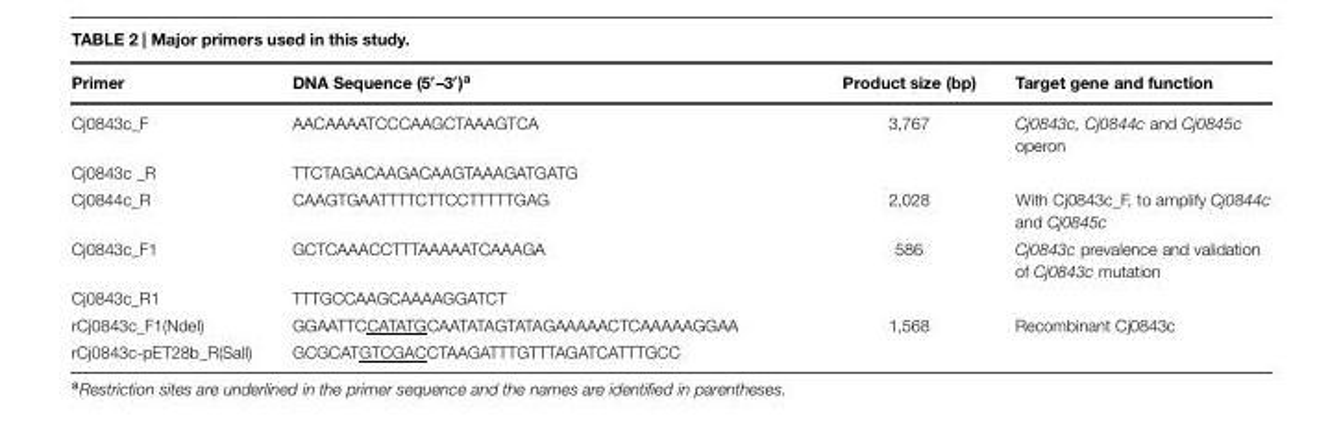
<table><thead><tr><td>Primer</td><td>DNA Sequence (5′–3′)<sup>a</sup></td><td>Product size (bp)</td><td>Target gene and function</td></tr></thead><tbody><tr><td>Cj0843c_F</td><td>AACAAAATCCCAAGCTAAAGTCA</td><td>3,767</td><td>Cj0843c, Cj0844c and Cj0845c operon</td></tr><tr><td>Cj0843c _R</td><td>TTCTAGACAAGACAAGTAAAGATGATG</td><td></td><td></td></tr><tr><td>Cj0844c_R</td><td>CAAGTGAATTTTCTTCCTTTTTGAG</td><td>2,028</td><td>With Cj0843c_F, to amplify Cj0844c and Cj0845c</td></tr><tr><td>Cj0843c_F1</td><td>GCTCAAACCTTTAAAAATCAAAGA</td><td>586</td><td>Cj0843c prevalence and validation of Cj0843c mutation</td></tr><tr><td>Cj0843c_R1</td><td>TTTGCCAAGCAAAAGGATCT</td><td></td><td></td></tr><tr><td>rCj0843c_F1(NdeI)</td><td>GGAATTCCATATGCAATATAGTATAGAAAAACTCAAAAAGGAA</td><td>1,568</td><td>Recombinant Cj0843c</td></tr><tr><td>rCj0843c-pET28b_R(SalI)</td><td>GCGCATGTCGACCTAAGATTTGTTTAGATCATTTGCC</td><td></td><td></td></tr></tbody></table>